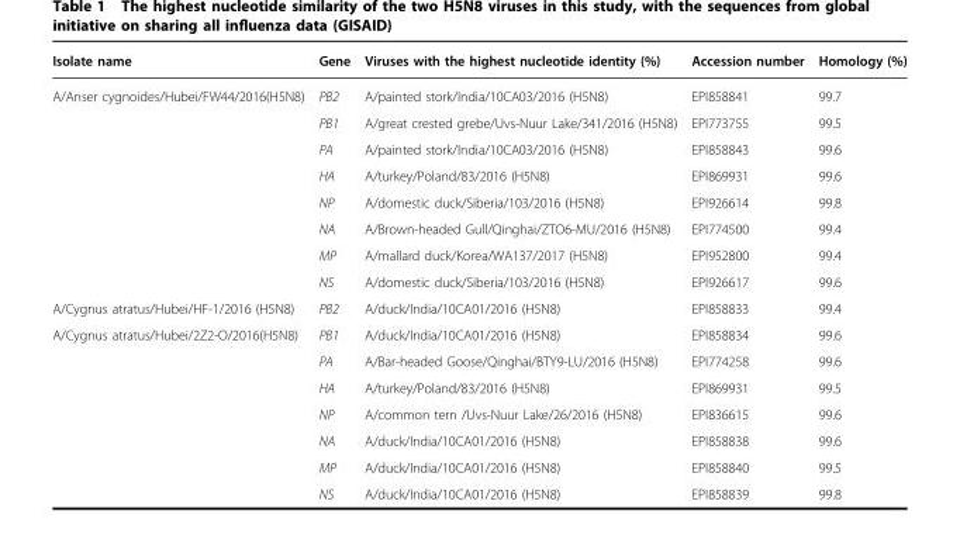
<table><thead><tr><td>Isolate name</td><td>Gene</td><td>Viruses with the highest nucleotide identity (%)</td><td>Accession number</td><td>Homology (%)</td></tr></thead><tbody><tr><td rowspan="8">A/Anser cygnoides/Hubei/FW44/2016(H5N8)</td><td>PB2</td><td>A/painted stork/India/10CA03/2016 (H5N8)</td><td>EPI858841</td><td>99.7</td></tr><tr><td>PB1</td><td>A/great crested grebe/Uvs-Nuur Lake/341/2016 (H5N8)</td><td>EPI773755</td><td>99.5</td></tr><tr><td>PA</td><td>A/painted stork/India/10CA03/2016 (H5N8)</td><td>EPI858843</td><td>99.6</td></tr><tr><td>HA</td><td>A/turkey/Poland/83/2016 (H5N8)</td><td>EPI869931</td><td>99.6</td></tr><tr><td>NP</td><td>A/domestic duck/Siberia/103/2016 (H5N8)</td><td>EPI926614</td><td>99.8</td></tr><tr><td>NA</td><td>A/Brown-headed Gull/Qinghai/ZTO6-MU/2016 (H5N8)</td><td>EPI774500</td><td>99.4</td></tr><tr><td>MP</td><td>A/mallard duck/Korea/WA137/2017 (H5N8)</td><td>EPI952800</td><td>99.4</td></tr><tr><td>NS</td><td>A/domestic duck/Siberia/103/2016 (H5N8)</td><td>EPI926617</td><td>99.6</td></tr><tr><td>A/Cygnus atratus/Hubei/HF-1/2016 (H5N8)</td><td>PB2</td><td>A/duck/India/10CA01/2016 (H5N8)</td><td>EPI858833</td><td>99.4</td></tr><tr><td rowspan="7">A/Cygnus atratus/Hubei/2Z2-O/2016(H5N8)</td><td>PB1</td><td>A/duck/India/10CA01/2016 (H5N8)</td><td>EPI858834</td><td>99.6</td></tr><tr><td>PA</td><td>A/Bar-headed Goose/Qinghai/BTY9-LU/2016 (H5N8)</td><td>EPI774258</td><td>99.6</td></tr><tr><td>HA</td><td>A/turkey/Poland/83/2016 (H5N8)</td><td>EPI869931</td><td>99.5</td></tr><tr><td>NP</td><td>A/common tern /Uvs-Nuur Lake/26/2016 (H5N8)</td><td>EPI836615</td><td>99.6</td></tr><tr><td>NA</td><td>A/duck/India/10CA01/2016 (H5N8)</td><td>EPI858838</td><td>99.6</td></tr><tr><td>MP</td><td>A/duck/India/10CA01/2016 (H5N8)</td><td>EPI858840</td><td>99.5</td></tr><tr><td>NS</td><td>A/duck/India/10CA01/2016 (H5N8)</td><td>EPI858839</td><td>99.8</td></tr></tbody></table>